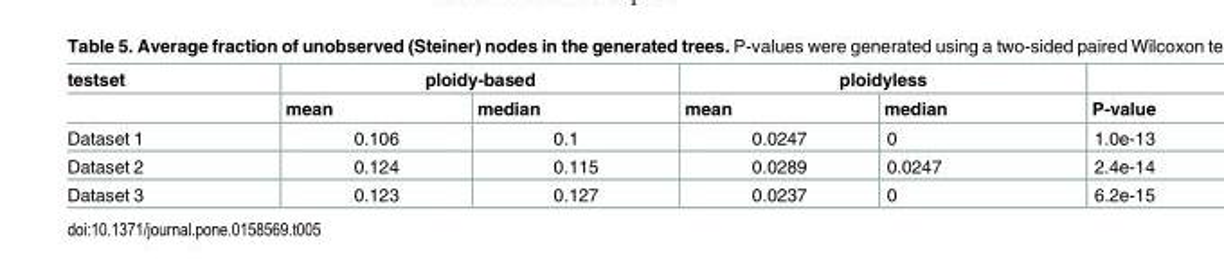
<table><thead><tr><td rowspan="2">testset</td><td colspan="2">ploidy-based</td><td colspan="2">ploidyless</td><td rowspan="2">P-value</td></tr><tr><td>mean</td><td>median</td><td>mean</td><td>median</td></tr></thead><tbody><tr><td>Dataset 1</td><td>0.106</td><td>0.1</td><td>0.0247</td><td>0</td><td>1.0e-13</td></tr><tr><td>Dataset 2</td><td>0.124</td><td>0.115</td><td>0.0289</td><td>0.0247</td><td>2.4e-14</td></tr><tr><td>Dataset 3</td><td>0.123</td><td>0.127</td><td>0.0237</td><td>0</td><td>6.2e-15</td></tr></tbody></table>